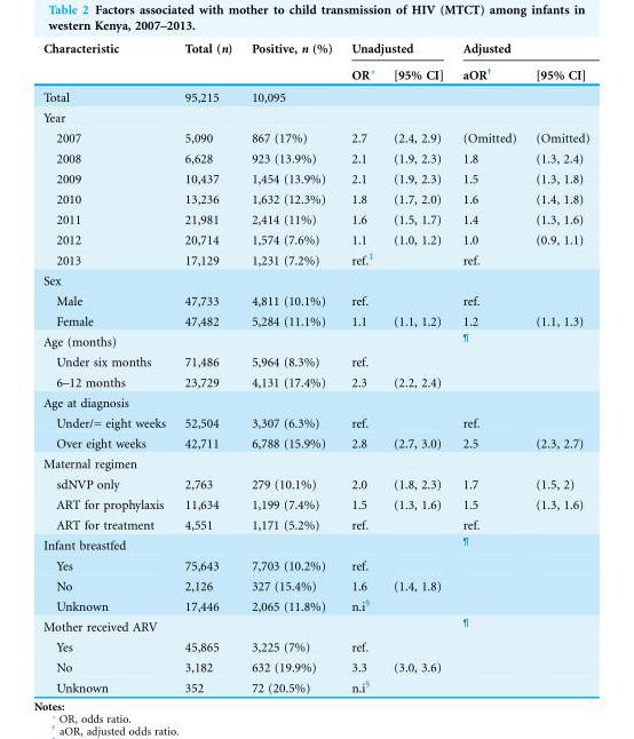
<table><thead><tr><td rowspan="2">Characteristic</td><td rowspan="2">Total (n)</td><td rowspan="2">Positive, n (%)</td><td colspan="2">Unadjusted</td><td colspan="2">Adjusted</td></tr><tr><td>OR*</td><td>[95% CI]</td><td>aOR<sup>†</sup></td><td>[95% CI]</td></tr></thead><tbody><tr><td>Total</td><td>95,215</td><td>10,095</td><td></td><td></td><td></td><td></td></tr><tr><td colspan="7">Year</td></tr><tr><td>2007</td><td>5,090</td><td>867 (17%)</td><td>2.7</td><td>(2.4, 2.9)</td><td>(Omitted)</td><td>(Omitted)</td></tr><tr><td>2008</td><td>6,628</td><td>923 (13.9%)</td><td>2.1</td><td>(1.9, 2.3)</td><td>1.8</td><td>(1.3, 2.4)</td></tr><tr><td>2009</td><td>10,437</td><td>1,454 (13.9%)</td><td>2.1</td><td>(1.9, 2.3)</td><td>1.5</td><td>(1.3, 1.8)</td></tr><tr><td>2010</td><td>13,236</td><td>1,632 (12.3%)</td><td>1.8</td><td>(1.7, 2.0)</td><td>1.6</td><td>(1.4, 1.8)</td></tr><tr><td>2011</td><td>21,981</td><td>2,414 (11%)</td><td>1.6</td><td>(1.5, 1.7)</td><td>1.4</td><td>(1.3, 1.6)</td></tr><tr><td>2012</td><td>20,714</td><td>1,574 (7.6%)</td><td>1.1</td><td>(1.0, 1.2)</td><td>1.0</td><td>(0.9, 1.1)</td></tr><tr><td>2013</td><td>17,129</td><td>1,231 (7.2%)</td><td>ref.<sup>‡</sup></td><td></td><td>ref.</td><td></td></tr><tr><td colspan="7">Sex</td></tr><tr><td>Male</td><td>47,733</td><td>4,811 (10.1%)</td><td>ref.</td><td></td><td>ref.</td><td></td></tr><tr><td>Female</td><td>47,482</td><td>5,284 (11.1%)</td><td>1.1</td><td>(1.1, 1.2)</td><td>1.2</td><td>(1.1, 1.3)</td></tr><tr><td>Age (months)</td><td></td><td></td><td></td><td></td><td><sup>¶</sup></td><td></td></tr><tr><td>Under six months</td><td>71,486</td><td>5,964 (8.3%)</td><td>ref.</td><td></td><td></td><td></td></tr><tr><td>6–12 months</td><td>23,729</td><td>4,131 (17.4%)</td><td>2.3</td><td>(2.2, 2.4)</td><td></td><td></td></tr><tr><td colspan="7">Age at diagnosis</td></tr><tr><td>Under/= eight weeks</td><td>52,504</td><td>3,307 (6.3%)</td><td>ref.</td><td></td><td>ref.</td><td></td></tr><tr><td>Over eight weeks</td><td>42,711</td><td>6,788 (15.9%)</td><td>2.8</td><td>(2.7, 3.0)</td><td>2.5</td><td>(2.3, 2.7)</td></tr><tr><td colspan="7">Maternal regimen</td></tr><tr><td>sdNVP only</td><td>2,763</td><td>279 (10.1%)</td><td>2.0</td><td>(1.8, 2.3)</td><td>1.7</td><td>(1.5, 2)</td></tr><tr><td>ART for prophylaxis</td><td>11,634</td><td>1,199 (7.4%)</td><td>1.5</td><td>(1.3, 1.6)</td><td>1.5</td><td>(1.3, 1.6)</td></tr><tr><td>ART for treatment</td><td>4,551</td><td>1,171 (5.2%)</td><td>ref.</td><td></td><td>ref.</td><td></td></tr><tr><td>Infant breastfed</td><td></td><td></td><td></td><td></td><td><sup>¶</sup></td><td></td></tr><tr><td>Yes</td><td>75,643</td><td>7,703 (10.2%)</td><td>ref.</td><td></td><td></td><td></td></tr><tr><td>No</td><td>2,126</td><td>327 (15.4%)</td><td>1.6</td><td>(1.4, 1.8)</td><td></td><td></td></tr><tr><td>Unknown</td><td>17,446</td><td>2,065 (11.8%)</td><td>n.i<sup>§</sup></td><td></td><td></td><td></td></tr><tr><td>Mother received ARV</td><td></td><td></td><td></td><td></td><td><sup>¶</sup></td><td></td></tr><tr><td>Yes</td><td>45,865</td><td>3,225 (7%)</td><td>ref.</td><td></td><td></td><td></td></tr><tr><td>No</td><td>3,182</td><td>632 (19.9%)</td><td>3.3</td><td>(3.0, 3.6)</td><td></td><td></td></tr><tr><td>Unknown</td><td>352</td><td>72 (20.5%)</td><td>n.i<sup>§</sup></td><td></td><td></td><td></td></tr></tbody></table>